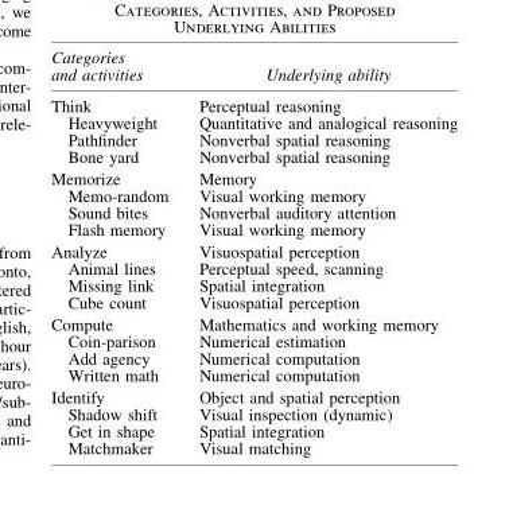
<table><thead><tr><td>Categories and activities</td><td>Underlying ability</td></tr></thead><tbody><tr><td>Think</td><td>Perceptual reasoning</td></tr><tr><td>Heavyweight</td><td>Quantitative and analogical reasoning</td></tr><tr><td>Pathfinder</td><td>Nonverbal spatial reasoning</td></tr><tr><td>Bone yard</td><td>Nonverbal spatial reasoning</td></tr><tr><td>Memorize</td><td>Memory</td></tr><tr><td>Memo-random</td><td>Visual working memory</td></tr><tr><td>Sound bites</td><td>Nonverbal auditory attention</td></tr><tr><td>Flash memory</td><td>Visual working memory</td></tr><tr><td>Analyze</td><td>Visuospatial perception</td></tr><tr><td>Animal lines</td><td>Perceptual speed, scanning</td></tr><tr><td>Missing link</td><td>Spatial integration</td></tr><tr><td>Cube count</td><td>Visuospatial perception</td></tr><tr><td>Compute</td><td>Mathematics and working memory</td></tr><tr><td>Coin-parison</td><td>Numerical estimation</td></tr><tr><td>Add agency</td><td>Numerical computation</td></tr><tr><td>Written math</td><td>Numerical computation</td></tr><tr><td>Identify</td><td>Object and spatial perception</td></tr><tr><td>Shadow shift</td><td>Visual inspection (dynamic)</td></tr><tr><td>Get in shape</td><td>Spatial integration</td></tr><tr><td>Matchmaker</td><td>Visual matching</td></tr></tbody></table>